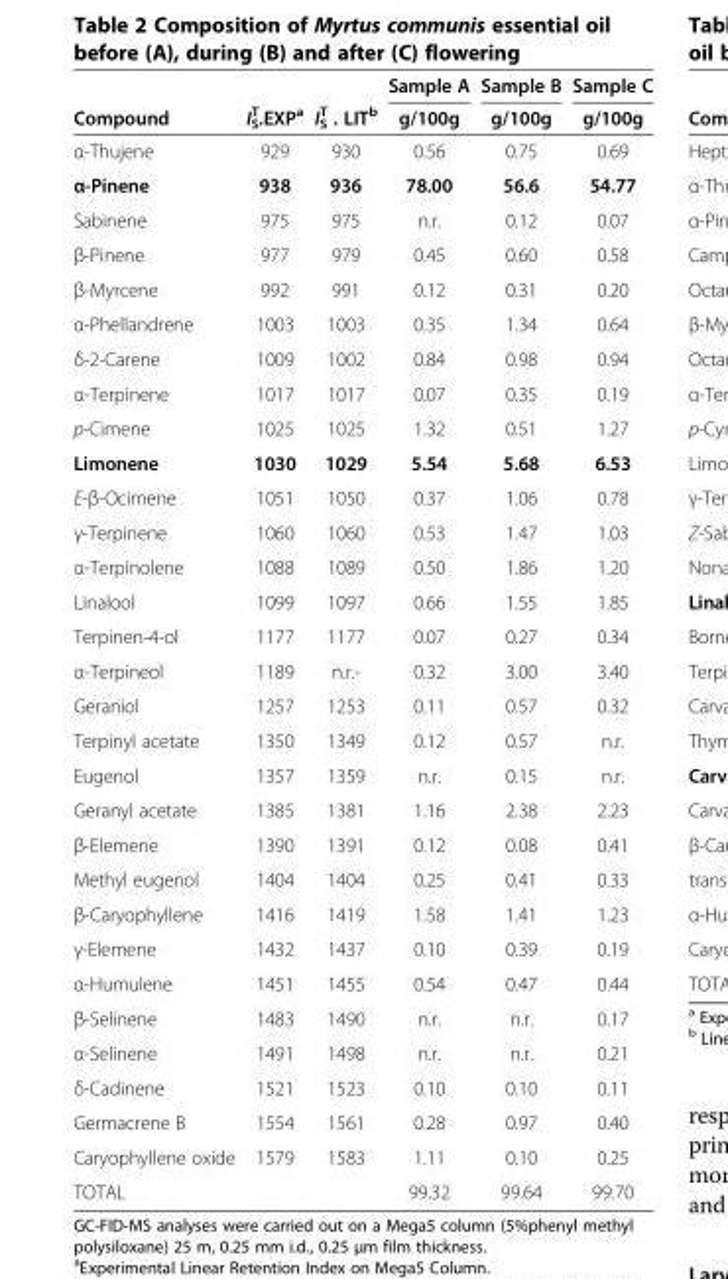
<table><thead><tr><td rowspan="2">Compound</td><td rowspan="2">I<sup>T</sup> <sub>S</sub>.EXP<sup>a</sup></td><td rowspan="2">I<sup>T</sup> <sub>S</sub> . LIT<sup>b</sup></td><td rowspan="2">Sample A g/100g</td><td rowspan="2">Sample B g/100g</td><td rowspan="2">Sample C g/100g</td></tr><tr></tr></thead><tbody><tr><td>α-Thujene</td><td>929</td><td>930</td><td>0.56</td><td>0.75</td><td>0.69</td></tr><tr><td>α-Pinene</td><td>938</td><td>936</td><td>78.00</td><td>56.6</td><td>54.77</td></tr><tr><td>Sabinene</td><td>975</td><td>975</td><td>n.r.</td><td>0.12</td><td>0.07</td></tr><tr><td>β-Pinene</td><td>977</td><td>979</td><td>0.45</td><td>0.60</td><td>0.58</td></tr><tr><td>β-Myrcene</td><td>992</td><td>991</td><td>0.12</td><td>0.31</td><td>0.20</td></tr><tr><td>α-Phellandrene</td><td>1003</td><td>1003</td><td>0.35</td><td>1.34</td><td>0.64</td></tr><tr><td>δ-2-Carene</td><td>1009</td><td>1002</td><td>0.84</td><td>0.98</td><td>0.94</td></tr><tr><td>α-Terpinene</td><td>1017</td><td>1017</td><td>0.07</td><td>0.35</td><td>0.19</td></tr><tr><td>p-Cimene</td><td>1025</td><td>1025</td><td>1.32</td><td>0.51</td><td>1.27</td></tr><tr><td>Limonene</td><td>1030</td><td>1029</td><td>5.54</td><td>5.68</td><td>6.53</td></tr><tr><td>E-β-Ocimene</td><td>1051</td><td>1050</td><td>0.37</td><td>1.06</td><td>0.78</td></tr><tr><td>γ-Terpinene</td><td>1060</td><td>1060</td><td>0.53</td><td>1.47</td><td>1.03</td></tr><tr><td>α-Terpinolene</td><td>1088</td><td>1089</td><td>0.50</td><td>1.86</td><td>1.20</td></tr><tr><td>Linalool</td><td>1099</td><td>1097</td><td>0.66</td><td>1.55</td><td>1.85</td></tr><tr><td>Terpinen-4-ol</td><td>1177</td><td>1177</td><td>0.07</td><td>0.27</td><td>0.34</td></tr><tr><td>α-Terpineol</td><td>1189</td><td>n.r.-</td><td>0.32</td><td>3.00</td><td>3.40</td></tr><tr><td>Geraniol</td><td>1257</td><td>1253</td><td>0.11</td><td>0.57</td><td>0.32</td></tr><tr><td>Terpinyl acetate</td><td>1350</td><td>1349</td><td>0.12</td><td>0.57</td><td>n.r.</td></tr><tr><td>Eugenol</td><td>1357</td><td>1359</td><td>n.r.</td><td>0.15</td><td>n.r.</td></tr><tr><td>Geranyl acetate</td><td>1385</td><td>1381</td><td>1.16</td><td>2.38</td><td>2.23</td></tr><tr><td>β-Elemene</td><td>1390</td><td>1391</td><td>0.12</td><td>0.08</td><td>0.41</td></tr><tr><td>Methyl eugenol</td><td>1404</td><td>1404</td><td>0.25</td><td>0.41</td><td>0.33</td></tr><tr><td>β-Caryophyllene</td><td>1416</td><td>1419</td><td>1.58</td><td>1.41</td><td>1.23</td></tr><tr><td>γ-Elemene</td><td>1432</td><td>1437</td><td>0.10</td><td>0.39</td><td>0.19</td></tr><tr><td>α-Humulene</td><td>1451</td><td>1455</td><td>0.54</td><td>0.47</td><td>0.44</td></tr><tr><td>β-Selinene</td><td>1483</td><td>1490</td><td>n.r.</td><td>n.r.</td><td>0.17</td></tr><tr><td>α-Selinene</td><td>1491</td><td>1498</td><td>n.r.</td><td>n.r.</td><td>0.21</td></tr><tr><td>δ-Cadinene</td><td>1521</td><td>1523</td><td>0.10</td><td>0.10</td><td>0.11</td></tr><tr><td>Germacrene B</td><td>1554</td><td>1561</td><td>0.28</td><td>0.97</td><td>0.40</td></tr><tr><td>Caryophyllene oxide</td><td>1579</td><td>1583</td><td>1.11</td><td>0.10</td><td>0.25</td></tr><tr><td>TOTAL</td><td></td><td></td><td>99.32</td><td>99.64</td><td>99.70</td></tr></tbody></table>